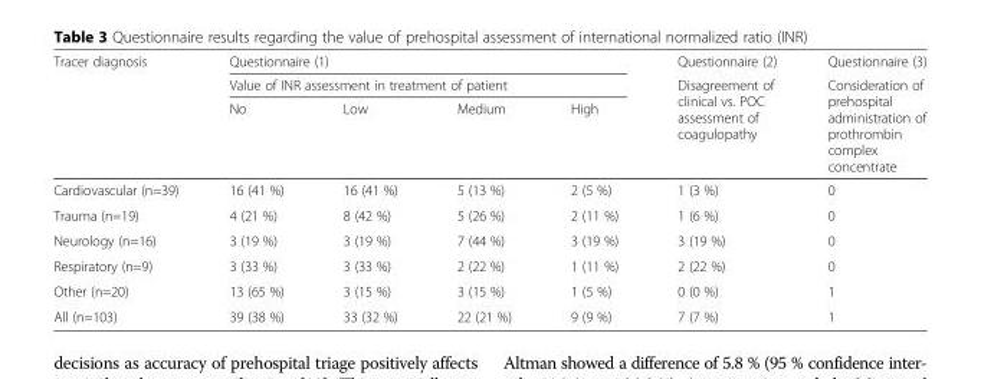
<table><thead><tr><td rowspan="3">Tracer diagnosis</td><td rowspan="2" colspan="4">Questionnaire (1) Value of INR assessment in treatment of patient</td><td rowspan="3">Questionnaire (2) Disagreement of clinical vs. POC assessment of coagulopathy</td><td rowspan="3">Questionnaire (3) Consideration of prehospital administration of prothrombin complex concentrate</td></tr><tr></tr><tr><td>No</td><td>Low</td><td>Medium</td><td>High</td></tr></thead><tbody><tr><td>Cardiovascular (n=39)</td><td>16 (41 %)</td><td>16 (41 %)</td><td>5 (13 %)</td><td>2 (5 %)</td><td>1 (3 %)</td><td>0</td></tr><tr><td>Trauma (n=19)</td><td>4 (21 %)</td><td>8 (42 %)</td><td>5 (26 %)</td><td>2 (11 %)</td><td>1 (6 %)</td><td>0</td></tr><tr><td>Neurology (n=16)</td><td>3 (19 %)</td><td>3 (19 %)</td><td>7 (44 %)</td><td>3 (19 %)</td><td>3 (19 %)</td><td>0</td></tr><tr><td>Respiratory (n=9)</td><td>3 (33 %)</td><td>3 (33 %)</td><td>2 (22 %)</td><td>1 (11 %)</td><td>2 (22 %)</td><td>0</td></tr><tr><td>Other (n=20)</td><td>13 (65 %)</td><td>3 (15 %)</td><td>3 (15 %)</td><td>1 (5 %)</td><td>0 (0 %)</td><td>1</td></tr><tr><td>All (n=103)</td><td>39 (38 %)</td><td>33 (32 %)</td><td>22 (21 %)</td><td>9 (9 %)</td><td>7 (7 %)</td><td>1</td></tr></tbody></table>